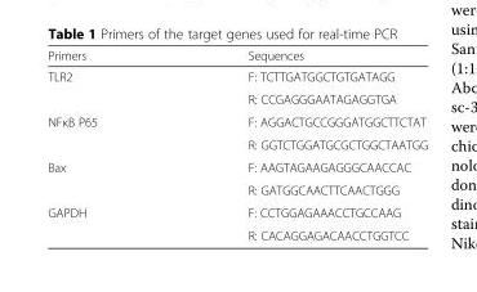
<table><thead><tr><td>Primers</td><td>Sequences</td></tr></thead><tbody><tr><td rowspan="2">TLR2</td><td>F: TCTTGATGGCTGTGATAGG</td></tr><tr><td>R: CCGAGGGAATAGAGGTGA</td></tr><tr><td rowspan="2">NFκB P65</td><td>F: AGGACTGCCGGGATGGCTTCTAT</td></tr><tr><td>R: GGTCTGGATGCGCTGGCTAATGG</td></tr><tr><td rowspan="2">Bax</td><td>F: AAGTAGAAGAGGGCAACCAC</td></tr><tr><td>R: GATGGCAACTTCAACTGGG</td></tr><tr><td rowspan="2">GAPDH</td><td>F: CCTGGAGAAACCTGCCAAG</td></tr><tr><td>R: CACAGGAGACAACCTGGTCC</td></tr></tbody></table>